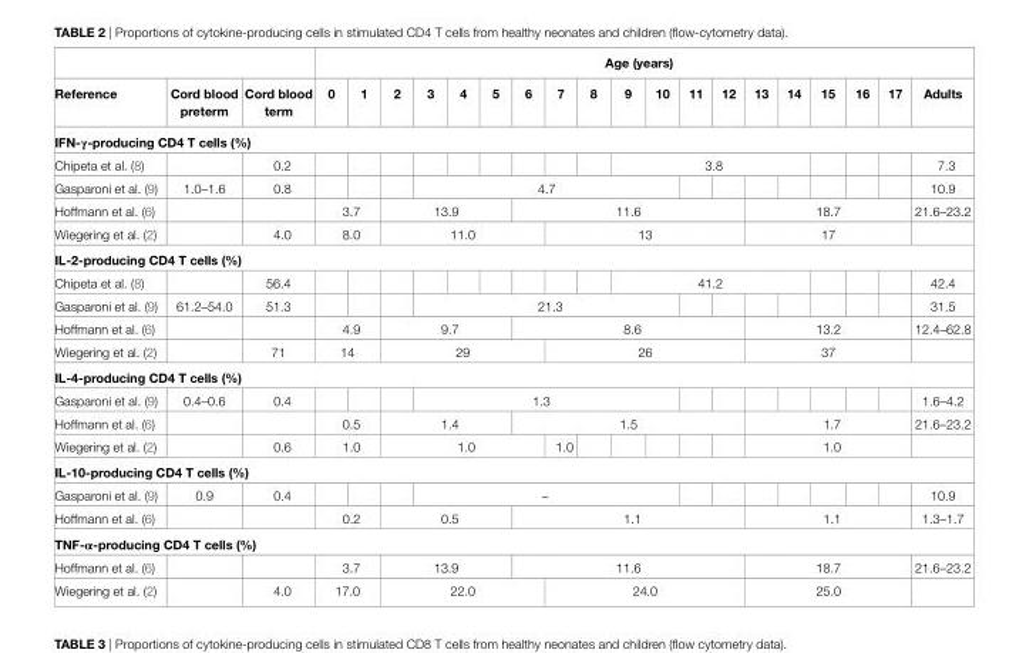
<table><thead><tr><td rowspan="2">Reference</td><td rowspan="2">cord blood preterm</td><td rowspan="2">cord blood term</td><td colspan="19">age (years)</td></tr><tr><td>0</td><td>1</td><td>2</td><td>3</td><td>4</td><td>5</td><td>6</td><td>7</td><td>8</td><td>9</td><td>10</td><td>11</td><td>12</td><td>13</td><td>14</td><td>15</td><td>16</td><td>17</td><td>adults</td></tr></thead><tbody><tr><td colspan="22">iFN-γ-producing cD4 t cells (%)</td></tr><tr><td>Chipeta et al. (8)</td><td></td><td>0.2</td><td></td><td></td><td></td><td></td><td></td><td></td><td></td><td></td><td></td><td colspan="6">3.8</td><td></td><td></td><td></td><td>7.3</td></tr><tr><td>Gasparoni et al. (9)</td><td>1.0–1.6</td><td>0.8</td><td></td><td></td><td></td><td colspan="8">4.7</td><td></td><td></td><td></td><td></td><td></td><td></td><td></td><td>10.9</td></tr><tr><td>Hoffmann et al. (6)</td><td></td><td></td><td colspan="2">3.7</td><td colspan="4">13.9</td><td colspan="7">11.6</td><td colspan="5">18.7</td><td>21.6–23.2</td></tr><tr><td>Wiegering et al. (2)</td><td></td><td>4.0</td><td colspan="2">8.0</td><td colspan="5">11.0</td><td colspan="6">13</td><td colspan="5">17</td><td></td></tr><tr><td colspan="22">iL-2-producing cD4 t cells (%)</td></tr><tr><td>Chipeta et al. (8)</td><td></td><td>56.4</td><td></td><td></td><td></td><td></td><td></td><td></td><td></td><td></td><td></td><td colspan="6">41.2</td><td></td><td></td><td></td><td>42.4</td></tr><tr><td>Gasparoni et al. (9)</td><td>61.2–54.0</td><td>51.3</td><td></td><td></td><td></td><td colspan="8">21.3</td><td></td><td></td><td></td><td></td><td></td><td></td><td></td><td>31.5</td></tr><tr><td>Hoffmann et al. (6)</td><td></td><td></td><td colspan="2">4.9</td><td colspan="4">9.7</td><td colspan="7">8.6</td><td colspan="5">13.2</td><td>12.4–62.8</td></tr><tr><td>Wiegering et al. (2)</td><td></td><td>71</td><td colspan="2">14</td><td colspan="5">29</td><td colspan="6">26</td><td colspan="5">37</td><td></td></tr><tr><td colspan="22">iL-4-producing cD4 t cells (%)</td></tr><tr><td>Gasparoni et al. (9)</td><td>0.4–0.6</td><td>0.4</td><td></td><td></td><td></td><td colspan="8">1.3</td><td></td><td></td><td></td><td></td><td></td><td></td><td></td><td>1.6–4.2</td></tr><tr><td>Hoffmann et al. (6)</td><td></td><td></td><td colspan="2">0.5</td><td colspan="4">1.4</td><td colspan="7">1.5</td><td colspan="5">1.7</td><td>21.6–23.2</td></tr><tr><td>Wiegering et al. (2)</td><td></td><td>0.6</td><td colspan="2">1.0</td><td colspan="5">1.0</td><td>1.0</td><td></td><td></td><td></td><td></td><td></td><td colspan="5">1.0</td><td></td></tr><tr><td colspan="22">iL-10-producing cD4 t cells (%)</td></tr><tr><td>Gasparoni et al. (9)</td><td>0.9</td><td>0.4</td><td></td><td></td><td></td><td colspan="8">–</td><td></td><td></td><td></td><td></td><td></td><td></td><td></td><td>10.9</td></tr><tr><td>Hoffmann et al. (6)</td><td></td><td></td><td colspan="2">0.2</td><td colspan="4">0.5</td><td colspan="7">1.1</td><td colspan="5">1.1</td><td>1.3–1.7</td></tr><tr><td colspan="22">tNF-α-producing cD4 t cells (%)</td></tr><tr><td>Hoffmann et al. (6)</td><td></td><td></td><td colspan="2">3.7</td><td colspan="4">13.9</td><td colspan="7">11.6</td><td colspan="5">18.7</td><td>21.6–23.2</td></tr><tr><td>Wiegering et al. (2)</td><td></td><td>4.0</td><td colspan="2">17.0</td><td colspan="5">22.0</td><td colspan="6">24.0</td><td colspan="5">25.0</td><td></td></tr></tbody></table>